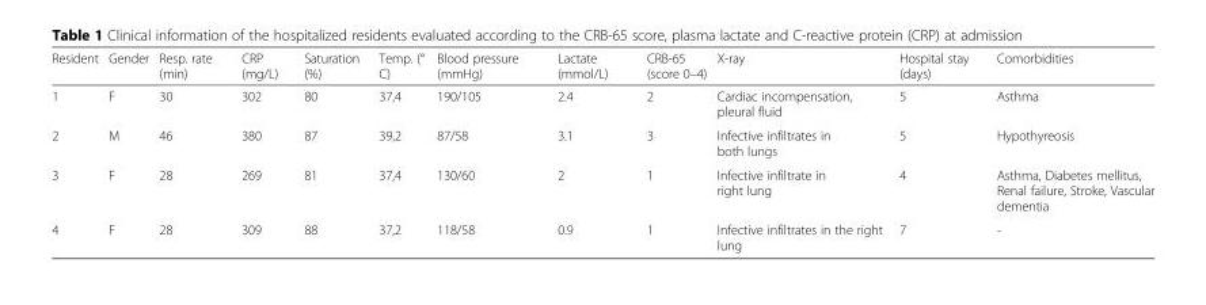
<table><thead><tr><td>Resident</td><td>Gender</td><td>Resp. rate (min)</td><td>CRP (mg/L)</td><td>Saturation (%)</td><td>Temp. (° C)</td><td>Blood pressure (mmHg)</td><td>Lactate (mmol/L)</td><td>CRB-65 (score 0–4)</td><td>X-ray</td><td>Hospital stay (days)</td><td>Comorbidities</td></tr></thead><tbody><tr><td>1</td><td>F</td><td>30</td><td>302</td><td>80</td><td>37,4</td><td>190/105</td><td>2.4</td><td>2</td><td>Cardiac incompensation, pleural fluid</td><td>5</td><td>Asthma</td></tr><tr><td>2</td><td>M</td><td>46</td><td>380</td><td>87</td><td>39,2</td><td>87/58</td><td>3.1</td><td>3</td><td>Infective infiltrates in both lungs</td><td>5</td><td>Hypothyreosis</td></tr><tr><td>3</td><td>F</td><td>28</td><td>269</td><td>81</td><td>37,4</td><td>130/60</td><td>2</td><td>1</td><td>Infective infiltrate in right lung</td><td>4</td><td>Asthma, Diabetes mellitus, Renal failure, Stroke, Vascular dementia</td></tr><tr><td>4</td><td>F</td><td>28</td><td>309</td><td>88</td><td>37,2</td><td>118/58</td><td>0.9</td><td>1</td><td>Infective infiltrates in the right lung</td><td>7</td><td>-</td></tr></tbody></table>